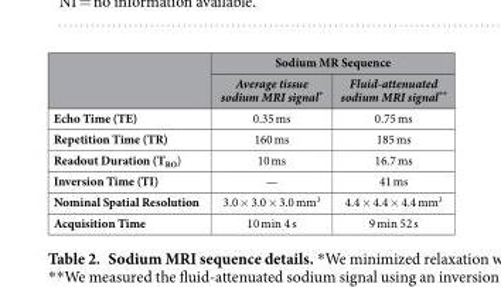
<table><thead><tr><td rowspan="2"></td><td colspan="2">Sodium MR Sequence</td></tr><tr><td>Average tissue sodium MRI signal*</td><td>Fluid-attenuated sodium MRI signal**</td></tr></thead><tbody><tr><td>Echo Time (TE)</td><td>0.35 ms</td><td>0.75 ms</td></tr><tr><td>Repetition Time (TR)</td><td>160 ms</td><td>185 ms</td></tr><tr><td>Readout Duration (T<sub>RO</sub>)</td><td>10 ms</td><td>16.7 ms</td></tr><tr><td>Inversion Time (TI)</td><td>—</td><td>41 ms</td></tr><tr><td>Nominal Spatial Resolution</td><td>3.0 × 3.0 × 3.0 mm<sup>3</sup></td><td>4.4 × 4.4 × 4.4 mm<sup>3</sup></td></tr><tr><td>Acquisition Time</td><td>10 min 4 s</td><td>9 min 52 s</td></tr></tbody></table>